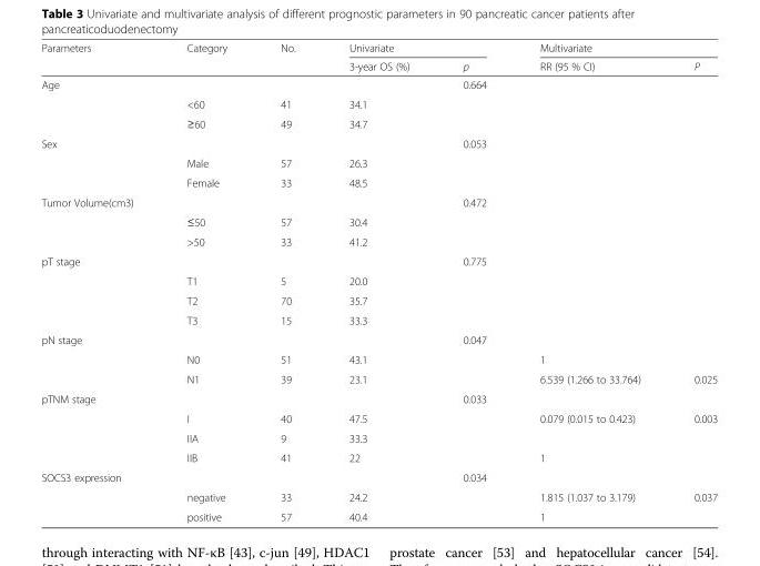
<table><thead><tr><td rowspan="2">Parameters</td><td rowspan="2">Category</td><td rowspan="2">No.</td><td colspan="2">Univariate</td><td colspan="2">Multivariate</td></tr><tr><td>3-year OS (%)</td><td>p</td><td>RR (95 % CI)</td><td>P</td></tr></thead><tbody><tr><td rowspan="3">Age</td><td></td><td></td><td></td><td>0.664</td><td></td><td></td></tr><tr><td>&lt;60</td><td>41</td><td>34.1</td><td></td><td></td><td></td></tr><tr><td>≥60</td><td>49</td><td>34.7</td><td></td><td></td><td></td></tr><tr><td rowspan="3">Sex</td><td></td><td></td><td></td><td>0.053</td><td></td><td></td></tr><tr><td>Male</td><td>57</td><td>26.3</td><td></td><td></td><td></td></tr><tr><td>Female</td><td>33</td><td>48.5</td><td></td><td></td><td></td></tr><tr><td rowspan="3">Tumor Volume(cm3)</td><td></td><td></td><td></td><td>0.472</td><td></td><td></td></tr><tr><td>≤50</td><td>57</td><td>30.4</td><td></td><td></td><td></td></tr><tr><td>&gt;50</td><td>33</td><td>41.2</td><td></td><td></td><td></td></tr><tr><td rowspan="4">pT stage</td><td></td><td></td><td></td><td>0.775</td><td></td><td></td></tr><tr><td>T1</td><td>5</td><td>20.0</td><td></td><td></td><td></td></tr><tr><td>T2</td><td>70</td><td>35.7</td><td></td><td></td><td></td></tr><tr><td>T3</td><td>15</td><td>33.3</td><td></td><td></td><td></td></tr><tr><td rowspan="3">pN stage</td><td></td><td></td><td></td><td>0.047</td><td></td><td></td></tr><tr><td>N0</td><td>51</td><td>43.1</td><td></td><td>1</td><td></td></tr><tr><td>N1</td><td>39</td><td>23.1</td><td></td><td>6.539 (1.266 to 33.764)</td><td>0.025</td></tr><tr><td rowspan="4">pTNM stage</td><td></td><td></td><td></td><td>0.033</td><td></td><td></td></tr><tr><td>I</td><td>40</td><td>47.5</td><td></td><td>0.079 (0.015 to 0.423)</td><td>0.003</td></tr><tr><td>IIA</td><td>9</td><td>33.3</td><td></td><td></td><td></td></tr><tr><td>IIB</td><td>41</td><td>22</td><td></td><td>1</td><td></td></tr><tr><td rowspan="3">SOCS3 expression</td><td></td><td></td><td></td><td>0.034</td><td></td><td></td></tr><tr><td>negative</td><td>33</td><td>24.2</td><td></td><td>1.815 (1.037 to 3.179)</td><td>0.037</td></tr><tr><td>positive</td><td>57</td><td>40.4</td><td></td><td>1</td><td></td></tr></tbody></table>